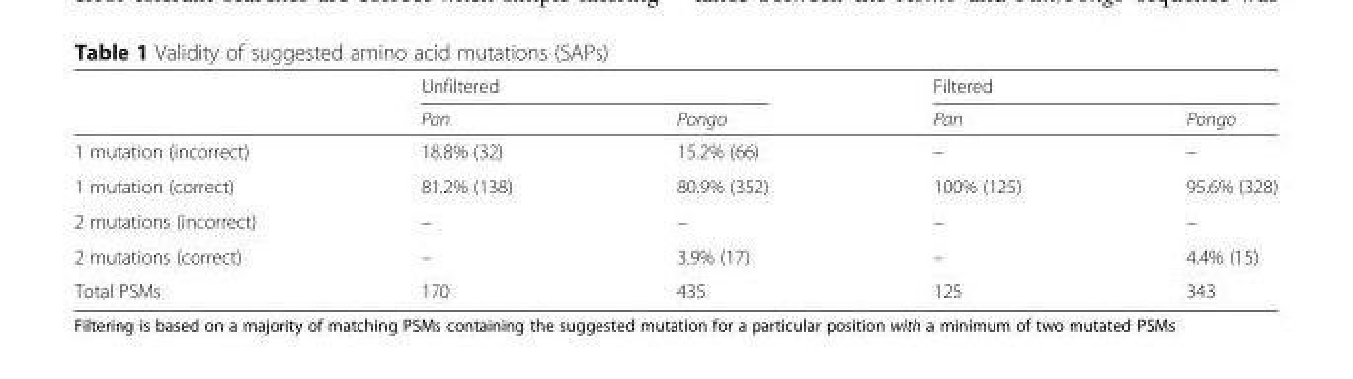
<table><thead><tr><td rowspan="2"></td><td colspan="2">Unfiltered</td><td colspan="2">Filtered</td></tr><tr><td>Pan</td><td>Pongo</td><td>Pan</td><td>Pongo</td></tr></thead><tbody><tr><td>1 mutation (incorrect)</td><td>18.8% (32)</td><td>15.2% (66)</td><td>–</td><td>–</td></tr><tr><td>1 mutation (correct)</td><td>81.2% (138)</td><td>80.9% (352)</td><td>100% (125)</td><td>95.6% (328)</td></tr><tr><td>2 mutations (incorrect)</td><td>–</td><td>–</td><td>–</td><td>–</td></tr><tr><td>2 mutations (correct)</td><td>–</td><td>3.9% (17)</td><td>–</td><td>4.4% (15)</td></tr><tr><td>Total PSMs</td><td>170</td><td>435</td><td>125</td><td>343</td></tr></tbody></table>